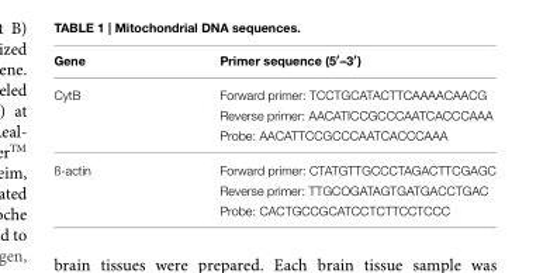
<table><thead><tr><td>Gene</td><td>Primer sequence (5′–3′)</td></tr></thead><tbody><tr><td rowspan="3">CytB</td><td>Forward primer: TCCTGCATACTTCAAAACAACG</td></tr><tr><td>Reverse primer: AACATICCGCCCAATCACCCAAA</td></tr><tr><td>Probe: AACATTCCGCCCAATCACCCAAA</td></tr><tr><td rowspan="3">ß-actin</td><td>Forward primer: CTATGTTGCCCTAGACTTCGAGC</td></tr><tr><td>Reverse primer: TTGCOGATAGTGATGACCTGAC</td></tr><tr><td>Probe: CACTGCCGCATCCTCTTCCTCCC</td></tr></tbody></table>